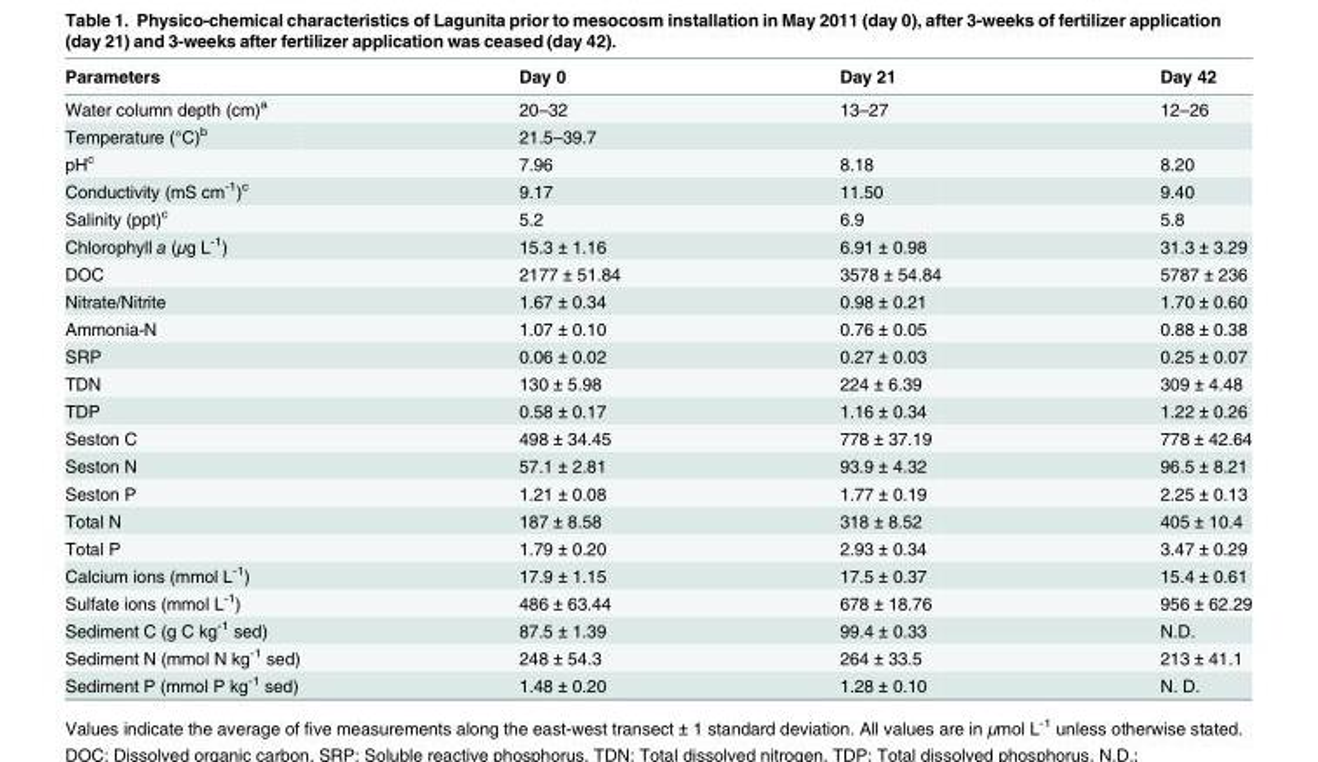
<table><thead><tr><td>Parameters</td><td>Day 0</td><td>Day 21</td><td>Day 42</td></tr></thead><tbody><tr><td>Water column depth (cm)<sup>a</sup></td><td>20–32</td><td>13–27</td><td>12–26</td></tr><tr><td>Temperature (°C)<sup>b</sup></td><td colspan="3">21.5–39.7</td></tr><tr><td>pH<sup>c</sup></td><td>7.96</td><td>8.18</td><td>8.20</td></tr><tr><td>Conductivity (mS cm<sup>-1</sup>)<sup>c</sup></td><td>9.17</td><td>11.50</td><td>9.40</td></tr><tr><td>Salinity (ppt)<sup>c</sup></td><td>5.2</td><td>6.9</td><td>5.8</td></tr><tr><td>Chlorophyll a (μg L<sup>-1</sup>)</td><td>15.3 ± 1.16</td><td>6.91 ± 0.98</td><td>31.3 ± 3.29</td></tr><tr><td>DOC</td><td>2177 ± 51.84</td><td>3578 ± 54.84</td><td>5787 ± 236</td></tr><tr><td>Nitrate/Nitrite</td><td>1.67 ± 0.34</td><td>0.98 ± 0.21</td><td>1.70 ± 0.60</td></tr><tr><td>Ammonia-N</td><td>1.07 ± 0.10</td><td>0.76 ± 0.05</td><td>0.88 ± 0.38</td></tr><tr><td>SRP</td><td>0.06 ± 0.02</td><td>0.27 ± 0.03</td><td>0.25 ± 0.07</td></tr><tr><td>TDN</td><td>130 ± 5.98</td><td>224 ± 6.39</td><td>309 ± 4.48</td></tr><tr><td>TDP</td><td>0.58 ± 0.17</td><td>1.16 ± 0.34</td><td>1.22 ± 0.26</td></tr><tr><td>Seston C</td><td>498 ± 34.45</td><td>778 ± 37.19</td><td>778 ± 42.64</td></tr><tr><td>Seston N</td><td>57.1 ± 2.81</td><td>93.9 ± 4.32</td><td>96.5 ± 8.21</td></tr><tr><td>Seston P</td><td>1.21 ± 0.08</td><td>1.77 ± 0.19</td><td>2.25 ± 0.13</td></tr><tr><td>Total N</td><td>187 ± 8.58</td><td>318 ± 8.52</td><td>405 ± 10.4</td></tr><tr><td>Total P</td><td>1.79 ± 0.20</td><td>2.93 ± 0.34</td><td>3.47 ± 0.29</td></tr><tr><td>Calcium ions (mmol L<sup>-1</sup>)</td><td>17.9 ± 1.15</td><td>17.5 ± 0.37</td><td>15.4 ± 0.61</td></tr><tr><td>Sulfate ions (mmol L<sup>-1</sup>)</td><td>486 ± 63.44</td><td>678 ± 18.76</td><td>956 ± 62.29</td></tr><tr><td>Sediment C (g C kg<sup>-1</sup> sed)</td><td>87.5 ± 1.39</td><td>99.4 ± 0.33</td><td>N.D.</td></tr><tr><td>Sediment N (mmol N kg<sup>-1</sup> sed)</td><td>248 ± 54.3</td><td>264 ± 33.5</td><td>213 ± 41.1</td></tr><tr><td>Sediment P (mmol P kg<sup>-1</sup> sed)</td><td>1.48 ± 0.20</td><td>1.28 ± 0.10</td><td>N. D.</td></tr></tbody></table>